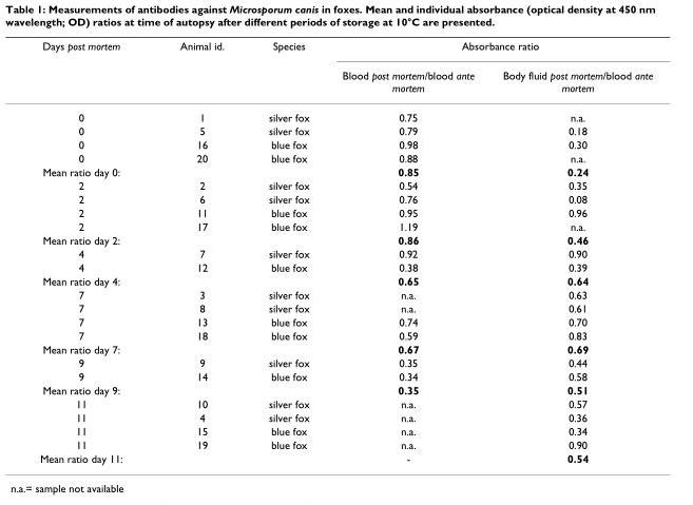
<table><thead><tr><td rowspan="2">Days post mortem</td><td rowspan="2">Animal id.</td><td rowspan="2">Species</td><td colspan="2">Absorbance ratio</td></tr><tr><td>Blood post mortem/blood ante mortem</td><td>Body fluid post mortem/blood ante mortem</td></tr></thead><tbody><tr><td>0</td><td>1</td><td>silver fox</td><td>0.75</td><td>n.a.</td></tr><tr><td>0</td><td>5</td><td>silver fox</td><td>0.79</td><td>0.18</td></tr><tr><td>0</td><td>16</td><td>blue fox</td><td>0.98</td><td>0.30</td></tr><tr><td>0</td><td>20</td><td>blue fox</td><td>0.88</td><td>n.a.</td></tr><tr><td>Mean ratio day 0:</td><td></td><td></td><td>0.85</td><td>0.24</td></tr><tr><td>2</td><td>2</td><td>silver fox</td><td>0.54</td><td>0.35</td></tr><tr><td>2</td><td>6</td><td>silver fox</td><td>0.76</td><td>0.08</td></tr><tr><td>2</td><td>11</td><td>blue fox</td><td>0.95</td><td>0.96</td></tr><tr><td>2</td><td>17</td><td>blue fox</td><td>1.19</td><td>n.a.</td></tr><tr><td>Mean ratio day 2:</td><td></td><td></td><td>0.86</td><td>0.46</td></tr><tr><td>4</td><td>7</td><td>silver fox</td><td>0.92</td><td>0.90</td></tr><tr><td>4</td><td>12</td><td>blue fox</td><td>0.38</td><td>0.39</td></tr><tr><td>Mean ratio day 4:</td><td></td><td></td><td>0.65</td><td>0.64</td></tr><tr><td>7</td><td>3</td><td>silver fox</td><td>n.a.</td><td>0.63</td></tr><tr><td>7</td><td>8</td><td>silver fox</td><td>n.a.</td><td>0.61</td></tr><tr><td>7</td><td>13</td><td>blue fox</td><td>0.74</td><td>0.70</td></tr><tr><td>7</td><td>18</td><td>blue fox</td><td>0.59</td><td>0.83</td></tr><tr><td>Mean ratio day 7:</td><td></td><td></td><td>0.67</td><td>0.69</td></tr><tr><td>9</td><td>9</td><td>silver fox</td><td>0.35</td><td>0.44</td></tr><tr><td>9</td><td>14</td><td>blue fox</td><td>0.34</td><td>0.58</td></tr><tr><td>Mean ratio day 9:</td><td></td><td></td><td>0.35</td><td>0.51</td></tr><tr><td>11</td><td>10</td><td>silver fox</td><td>n.a.</td><td>0.57</td></tr><tr><td>11</td><td>4</td><td>silver fox</td><td>n.a.</td><td>0.36</td></tr><tr><td>11</td><td>15</td><td>blue fox</td><td>n.a.</td><td>0.34</td></tr><tr><td>11</td><td>19</td><td>blue fox</td><td>n.a.</td><td>0.90</td></tr><tr><td>Mean ratio day 11:</td><td></td><td></td><td>-</td><td>0.54</td></tr></tbody></table>